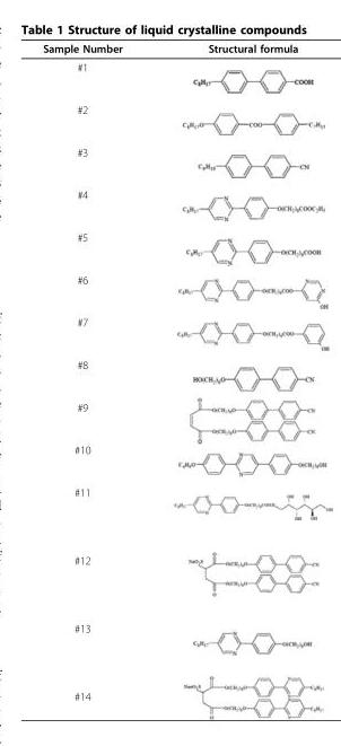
<table><thead><tr><td>Sample Number</td><td>Structural formula</td></tr></thead><tbody><tr><td colspan="2">#1</td></tr><tr><td colspan="2">#2</td></tr><tr><td colspan="2">#3</td></tr><tr><td colspan="2">#4</td></tr><tr><td colspan="2">#5</td></tr><tr><td colspan="2">#6</td></tr><tr><td colspan="2">#7</td></tr><tr><td colspan="2">#8</td></tr><tr><td colspan="2">#9</td></tr><tr><td colspan="2">#10</td></tr><tr><td colspan="2">#11</td></tr><tr><td colspan="2">#12</td></tr><tr><td colspan="2">#13</td></tr><tr><td>#14</td><td></td></tr></tbody></table>